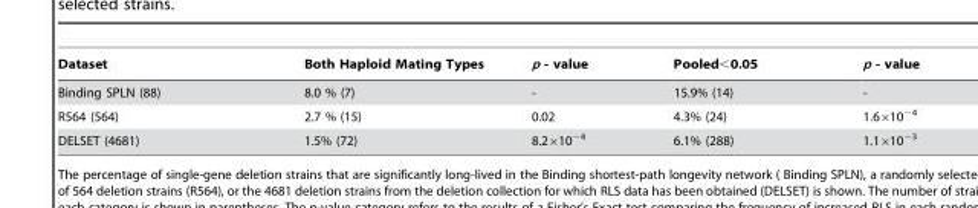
<table><thead><tr><td>Dataset</td><td>Both Haploid Mating Types</td><td>p - value</td><td>Pooled&lt;0.05</td><td>p - value</td></tr></thead><tbody><tr><td>Binding SPLN (88)</td><td>8.0 % (7)</td><td>-</td><td>15.9% (14)</td><td>-</td></tr><tr><td>R564 (564)</td><td>2.7 % (15)</td><td>0.02</td><td>4.3% (24)</td><td>1.6×10<sup>−4</sup></td></tr><tr><td>DELSET (4681)</td><td>1.5% (72)</td><td>8.2×10<sup>−4</sup></td><td>6.1% (288)</td><td>1.1×10<sup>−3</sup></td></tr></tbody></table>